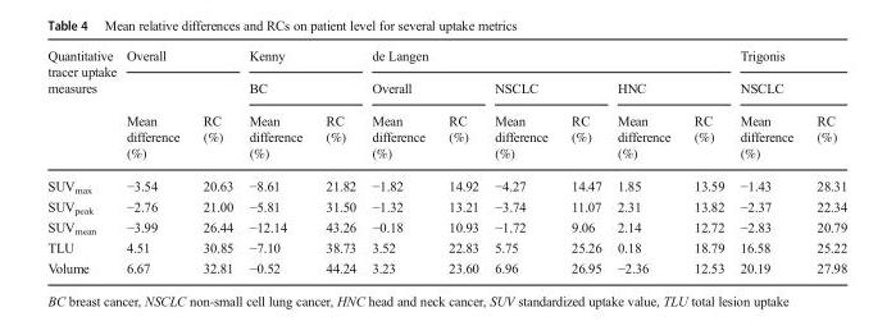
<table><thead><tr><td rowspan="3">Quantitative tracer uptake measures</td><td colspan="2">Overall</td><td rowspan="2" colspan="2">Kenny BC</td><td colspan="6">de Langen</td><td rowspan="2" colspan="2">Trigonis NSCLC</td></tr><tr><td rowspan="2">Mean difference (%)</td><td rowspan="2">RC (%)</td><td colspan="2">Overall</td><td colspan="2">NSCLC</td><td colspan="2">HNC</td></tr><tr><td>Mean difference (%)</td><td>RC (%)</td><td>Mean difference (%)</td><td>RC (%)</td><td>Mean difference (%)</td><td>RC (%)</td><td>Mean difference (%)</td><td>RC (%)</td><td>Mean difference (%)</td><td>RC (%)</td></tr></thead><tbody><tr><td>SUV<sub>max</sub></td><td>−3.54</td><td>20.63</td><td>−8.61</td><td>21.82</td><td>−1.82</td><td>14.92</td><td>−4.27</td><td>14.47</td><td>1.85</td><td>13.59</td><td>−1.43</td><td>28.31</td></tr><tr><td>SUV<sub>peak</sub></td><td>−2.76</td><td>21.00</td><td>−5.81</td><td>31.50</td><td>−1.32</td><td>13.21</td><td>−3.74</td><td>11.07</td><td>2.31</td><td>13.82</td><td>−2.37</td><td>22.34</td></tr><tr><td>SUV<sub>mean</sub></td><td>−3.99</td><td>26.44</td><td>−12.14</td><td>43.26</td><td>−0.18</td><td>10.93</td><td>−1.72</td><td>9.06</td><td>2.14</td><td>12.72</td><td>−2.83</td><td>20.79</td></tr><tr><td>TLU</td><td>4.51</td><td>30.85</td><td>−7.10</td><td>38.73</td><td>3.52</td><td>22.83</td><td>5.75</td><td>25.26</td><td>0.18</td><td>18.79</td><td>16.58</td><td>25.22</td></tr><tr><td>Volume</td><td>6.67</td><td>32.81</td><td>−0.52</td><td>44.24</td><td>3.23</td><td>23.60</td><td>6.96</td><td>26.95</td><td>−2.36</td><td>12.53</td><td>20.19</td><td>27.98</td></tr></tbody></table>